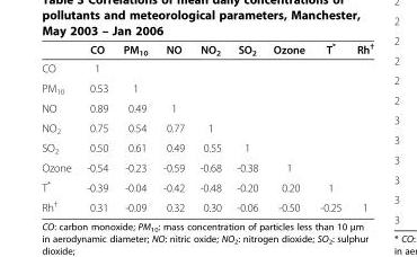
<table><thead><tr><td></td><td>CO</td><td>PM<sub>10</sub></td><td>NO</td><td>NO<sub>2</sub></td><td>SO<sub>2</sub></td><td>Ozone</td><td>T*</td><td>Rh<sup>†</sup></td></tr></thead><tbody><tr><td>CO</td><td>1</td><td></td><td></td><td></td><td></td><td></td><td></td><td></td></tr><tr><td>PM<sub>10</sub></td><td>0.53</td><td>1</td><td></td><td></td><td></td><td></td><td></td><td></td></tr><tr><td>NO</td><td>0.89</td><td>0.49</td><td>1</td><td></td><td></td><td></td><td></td><td></td></tr><tr><td>NO<sub>2</sub></td><td>0.75</td><td>0.54</td><td>0.77</td><td>1</td><td></td><td></td><td></td><td></td></tr><tr><td>SO<sub>2</sub></td><td>0.50</td><td>0.61</td><td>0.49</td><td>0.55</td><td>1</td><td></td><td></td><td></td></tr><tr><td>Ozone</td><td>-0.54</td><td>-0.23</td><td>-0.59</td><td>-0.68</td><td>-0.38</td><td>1</td><td></td><td></td></tr><tr><td>T*</td><td>-0.39</td><td>-0.04</td><td>-0.42</td><td>-0.48</td><td>-0.20</td><td>0.20</td><td>1</td><td></td></tr><tr><td>Rh<sup>†</sup></td><td>0.31</td><td>-0.09</td><td>0.32</td><td>0.30</td><td>-0.06</td><td>-0.50</td><td>-0.25</td><td>1</td></tr></tbody></table>